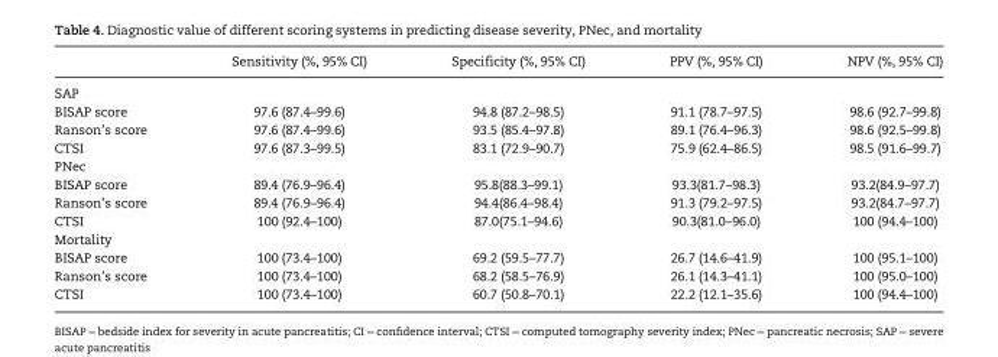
<table><thead><tr><td></td><td>Sensitivity (%, 95% CI)</td><td>Specificity (%, 95% CI)</td><td>PPV (%, 95% CI)</td><td>NPV (%, 95% CI)</td></tr></thead><tbody><tr><td colspan="5">SAP</td></tr><tr><td>BISAP score</td><td>97.6 (87.4–99.6)</td><td>94.8 (87.2–98.5)</td><td>91.1 (78.7–97.5)</td><td>98.6 (92.7–99.8)</td></tr><tr><td>Ranson’s score</td><td>97.6 (87.4–99.6)</td><td>93.5 (85.4–97.8)</td><td>89.1 (76.4–96.3)</td><td>98.6 (92.5–99.8)</td></tr><tr><td>CTSI</td><td>97.6 (87.3–99.5)</td><td>83.1 (72.9–90.7)</td><td>75.9 (62.4–86.5)</td><td>98.5 (91.6–99.7)</td></tr><tr><td colspan="5">PNec</td></tr><tr><td>BISAP score</td><td>89.4 (76.9–96.4)</td><td>95.8(88.3–99.1)</td><td>93.3(81.7–98.3)</td><td>93.2(84.9–97.7)</td></tr><tr><td>Ranson’s score</td><td>89.4 (76.9–96.4)</td><td>94.4(86.4–98.4)</td><td>91.3 (79.2–97.5)</td><td>93.2(84.7–97.7)</td></tr><tr><td>CTSI</td><td>100 (92.4–100)</td><td>87.0(75.1–94.6)</td><td>90.3(81.0–96.0)</td><td>100 (94.4–100)</td></tr><tr><td colspan="5">Mortality</td></tr><tr><td>BISAP score</td><td>100 (73.4–100)</td><td>69.2 (59.5–77.7)</td><td>26.7 (14.6–41.9)</td><td>100 (95.1–100)</td></tr><tr><td>Ranson’s score</td><td>100 (73.4–100)</td><td>68.2 (58.5–76.9)</td><td>26.1 (14.3–41.1)</td><td>100 (95.0–100)</td></tr><tr><td>CTSI</td><td>100 (73.4–100)</td><td>60.7 (50.8–70.1)</td><td>22.2 (12.1–35.6)</td><td>100 (94.4–100)</td></tr></tbody></table>